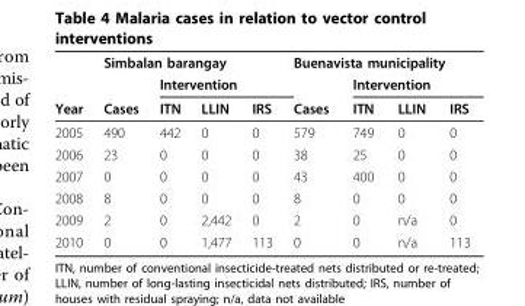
<table><thead><tr><td rowspan="3">Year</td><td colspan="4">Simbalan barangay</td><td colspan="4">Buenavista municipality</td></tr><tr><td rowspan="2">Cases</td><td colspan="3">Intervention</td><td rowspan="2">Cases</td><td colspan="3">Intervention</td></tr><tr><td>ITN</td><td>LLIN</td><td>IRS</td><td>ITN</td><td>LLIN</td><td>IRS</td></tr></thead><tbody><tr><td>2005</td><td>490</td><td>442</td><td>0</td><td>0</td><td>579</td><td>749</td><td>0</td><td>0</td></tr><tr><td>2006</td><td>23</td><td>0</td><td>0</td><td>0</td><td>38</td><td>25</td><td>0</td><td>0</td></tr><tr><td>2007</td><td>0</td><td>0</td><td>0</td><td>0</td><td>43</td><td>400</td><td>0</td><td>0</td></tr><tr><td>2008</td><td>8</td><td>0</td><td>0</td><td>0</td><td>8</td><td>0</td><td>0</td><td>0</td></tr><tr><td>2009</td><td>2</td><td>0</td><td>2,442</td><td>0</td><td>2</td><td>0</td><td>n/a</td><td>0</td></tr><tr><td>2010</td><td>0</td><td>0</td><td>1,477</td><td>113</td><td>0</td><td>0</td><td>n/a</td><td>113</td></tr></tbody></table>